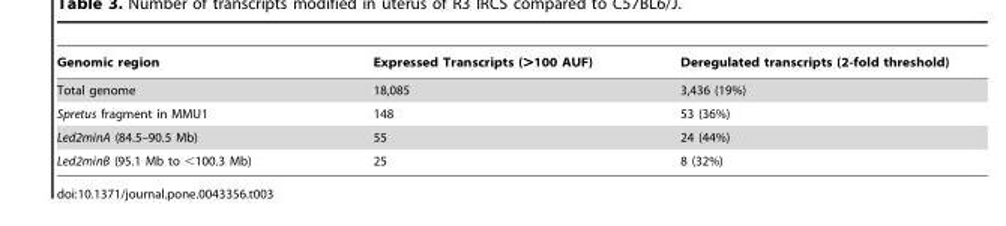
<table><thead><tr><td>Genomic region</td><td>Expressed Transcripts (&gt;100 AUF)</td><td>Deregulated transcripts (2-fold threshold)</td></tr></thead><tbody><tr><td>Total genome</td><td>18,085</td><td>3,436 (19%)</td></tr><tr><td>Spretus fragment in MMU1</td><td>148</td><td>53 (36%)</td></tr><tr><td>Led2minA (84.5–90.5 Mb)</td><td>55</td><td>24 (44%)</td></tr><tr><td>Led2minB (95.1 Mb to &lt;100.3 Mb)</td><td>25</td><td>8 (32%)</td></tr></tbody></table>